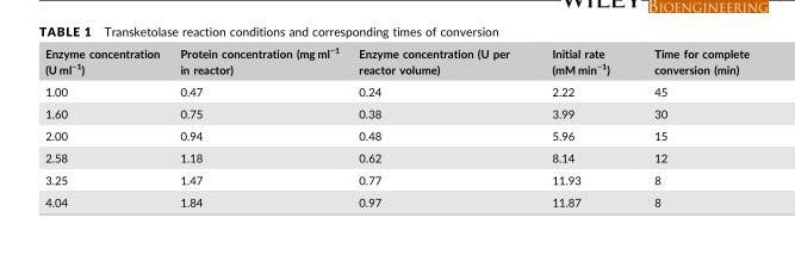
<table><thead><tr><td>Enzyme concentration (U ml<sup>−1</sup>)</td><td>Protein concentration (mg ml<sup>−1</sup> in reactor)</td><td>Enzyme concentration (U per reactor volume)</td><td>Initial rate (mM min<sup>−1</sup>)</td><td>Time for complete conversion (min)</td></tr></thead><tbody><tr><td>1.00</td><td>0.47</td><td>0.24</td><td>2.22</td><td>45</td></tr><tr><td>1.60</td><td>0.75</td><td>0.38</td><td>3.99</td><td>30</td></tr><tr><td>2.00</td><td>0.94</td><td>0.48</td><td>5.96</td><td>15</td></tr><tr><td>2.58</td><td>1.18</td><td>0.62</td><td>8.14</td><td>12</td></tr><tr><td>3.25</td><td>1.47</td><td>0.77</td><td>11.93</td><td>8</td></tr><tr><td>4.04</td><td>1.84</td><td>0.97</td><td>11.87</td><td>8</td></tr></tbody></table>